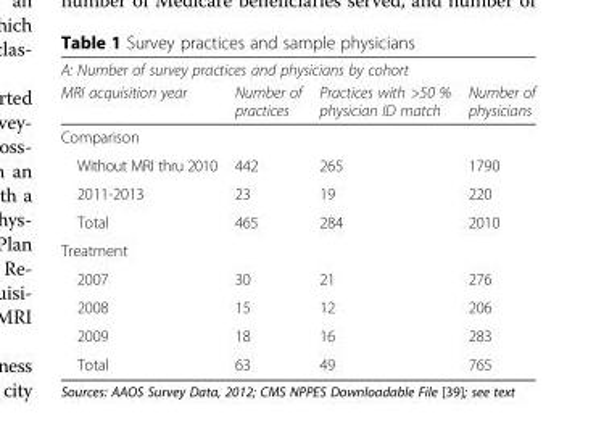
<table><thead><tr><td colspan="4">A: Number of survey practices and physicians by cohort</td></tr><tr><td>MRI acquisition year</td><td>Number of practices</td><td>Practices with &gt;50 % physician ID match</td><td>Number of physicians</td></tr></thead><tbody><tr><td colspan="4">Comparison</td></tr><tr><td>Without MRI thru 2010</td><td>442</td><td>265</td><td>1790</td></tr><tr><td>2011-2013</td><td>23</td><td>19</td><td>220</td></tr><tr><td>Total</td><td>465</td><td>284</td><td>2010</td></tr><tr><td colspan="4">Treatment</td></tr><tr><td>2007</td><td>30</td><td>21</td><td>276</td></tr><tr><td>2008</td><td>15</td><td>12</td><td>206</td></tr><tr><td>2009</td><td>18</td><td>16</td><td>283</td></tr><tr><td>Total</td><td>63</td><td>49</td><td>765</td></tr></tbody></table>